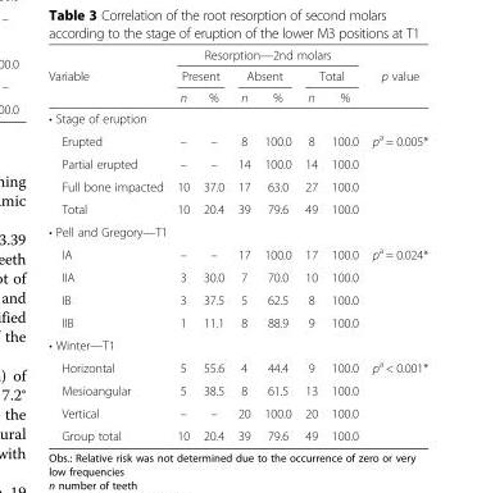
<table><thead><tr><td rowspan="3">Variable</td><td colspan="6">Resorption—2nd molars</td><td rowspan="3">p value</td></tr><tr><td colspan="2">Present</td><td colspan="2">Absent</td><td colspan="2">Total</td></tr><tr><td>n</td><td>%</td><td>n</td><td>%</td><td>n</td><td>%</td></tr></thead><tbody><tr><td colspan="8">• Stage of eruption</td></tr><tr><td>Erupted</td><td>–</td><td>–</td><td>8</td><td>100.0</td><td>8</td><td>100.0</td><td>p<sup>a</sup> = 0.005*</td></tr><tr><td>Partial erupted</td><td>–</td><td>–</td><td>14</td><td>100.0</td><td>14</td><td>100.0</td><td></td></tr><tr><td>Full bone impacted</td><td>10</td><td>37.0</td><td>17</td><td>63.0</td><td>27</td><td>100.0</td><td></td></tr><tr><td>Total</td><td>10</td><td>20.4</td><td>39</td><td>79.6</td><td>49</td><td>100.0</td><td></td></tr><tr><td colspan="8">• Pell and Gregory—T1</td></tr><tr><td>IA</td><td>–</td><td>–</td><td>17</td><td>100.0</td><td>17</td><td>100.0</td><td>p<sup>a</sup> = 0.024*</td></tr><tr><td>IIA</td><td>3</td><td>30.0</td><td>7</td><td>70.0</td><td>10</td><td>100.0</td><td></td></tr><tr><td>IB</td><td>3</td><td>37.5</td><td>5</td><td>62.5</td><td>8</td><td>100.0</td><td></td></tr><tr><td>IIB</td><td>1</td><td>11.1</td><td>8</td><td>88.9</td><td>9</td><td>100.0</td><td></td></tr><tr><td colspan="8">• Winter—T1</td></tr><tr><td>Horizontal</td><td>5</td><td>55.6</td><td>4</td><td>44.4</td><td>9</td><td>100.0</td><td>p<sup>a</sup> &lt; 0.001*</td></tr><tr><td>Mesioangular</td><td>5</td><td>38.5</td><td>8</td><td>61.5</td><td>13</td><td>100.0</td><td></td></tr><tr><td>Vertical</td><td>–</td><td>–</td><td>20</td><td>100.0</td><td>20</td><td>100.0</td><td></td></tr><tr><td>Group total</td><td>10</td><td>20.4</td><td>39</td><td>79.6</td><td>49</td><td>100.0</td><td></td></tr></tbody></table>